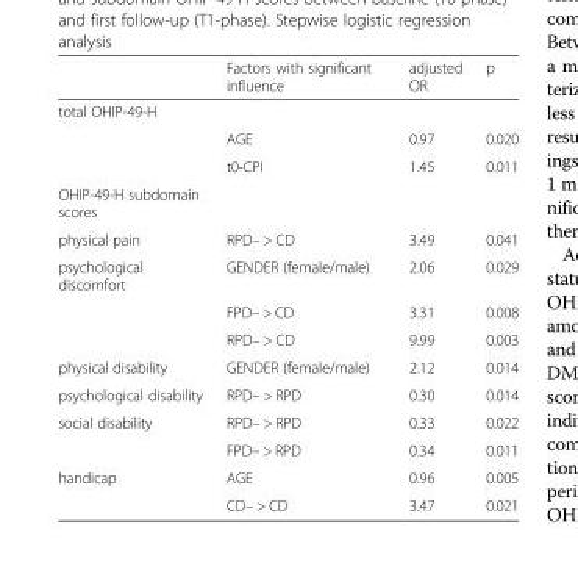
<table><thead><tr><td></td><td>Factors with significant influence</td><td>adjusted OR</td><td>p</td></tr></thead><tbody><tr><td colspan="4">total OHIP-49-H</td></tr><tr><td></td><td>AGE</td><td>0.97</td><td>0.020</td></tr><tr><td></td><td>t0-CPI</td><td>1.45</td><td>0.011</td></tr><tr><td colspan="4">OHIP-49-H subdomain scores</td></tr><tr><td>physical pain</td><td>RPD– &gt; CD</td><td>3.49</td><td>0.041</td></tr><tr><td rowspan="3">psychological discomfort</td><td>GENDER (female/male)</td><td>2.06</td><td>0.029</td></tr><tr><td>FPD– &gt; CD</td><td>3.31</td><td>0.008</td></tr><tr><td>RPD– &gt; CD</td><td>9.99</td><td>0.003</td></tr><tr><td>physical disability</td><td>GENDER (female/male)</td><td>2.12</td><td>0.014</td></tr><tr><td>psychological disability</td><td>RPD– &gt; RPD</td><td>0.30</td><td>0.014</td></tr><tr><td rowspan="2">social disability</td><td>RPD– &gt; RPD</td><td>0.33</td><td>0.022</td></tr><tr><td>FPD– &gt; RPD</td><td>0.34</td><td>0.011</td></tr><tr><td rowspan="2">handicap</td><td>AGE</td><td>0.96</td><td>0.005</td></tr><tr><td>CD– &gt; CD</td><td>3.47</td><td>0.021</td></tr></tbody></table>